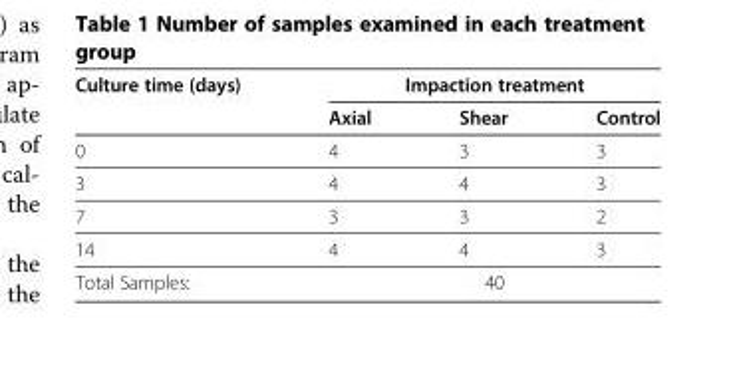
<table><thead><tr><td rowspan="2">Culture time (days)</td><td colspan="3">Impaction treatment</td></tr><tr><td>Axial</td><td>Shear</td><td>Control</td></tr></thead><tbody><tr><td>0</td><td>4</td><td>3</td><td>3</td></tr><tr><td>3</td><td>4</td><td>4</td><td>3</td></tr><tr><td>7</td><td>3</td><td>3</td><td>2</td></tr><tr><td>14</td><td>4</td><td>4</td><td>3</td></tr><tr><td>Total Samples:</td><td></td><td>40</td><td></td></tr></tbody></table>